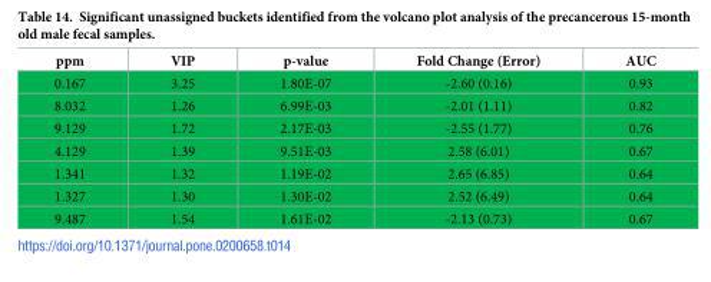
<table><thead><tr><td>ppm</td><td>VIP</td><td>p-value</td><td>Fold Change (Error)</td><td>AUC</td></tr></thead><tbody><tr><td>0.167</td><td>3.25</td><td>1.80E-07</td><td>-2.60 (0.16)</td><td>0.93</td></tr><tr><td>8.032</td><td>1.26</td><td>6.99E-03</td><td>-2.01 (1.11)</td><td>0.82</td></tr><tr><td>9.129</td><td>1.72</td><td>2.17E-03</td><td>-2.55 (1.77)</td><td>0.76</td></tr><tr><td>4.129</td><td>1.39</td><td>9.51E-03</td><td>2.58 (6.01)</td><td>0.67</td></tr><tr><td>1.341</td><td>1.32</td><td>1.19E-02</td><td>2.65 (6.85)</td><td>0.64</td></tr><tr><td>1.327</td><td>1.30</td><td>1.30E-02</td><td>2.52 (6.49)</td><td>0.64</td></tr><tr><td>9.487</td><td>1.54</td><td>1.61E-02</td><td>-2.13 (0.73)</td><td>0.67</td></tr></tbody></table>